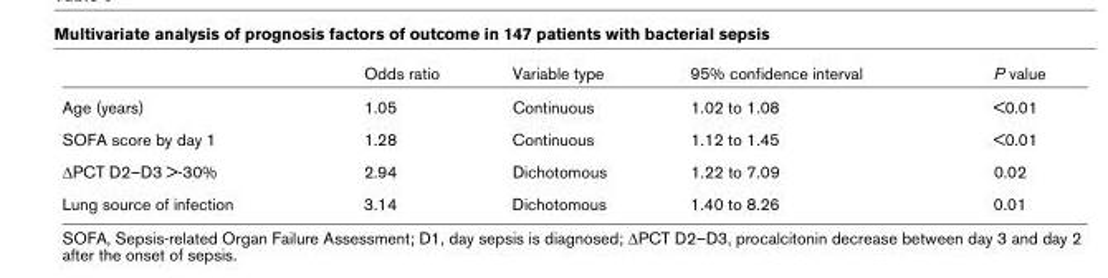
<table><thead><tr><td></td><td>Odds ratio</td><td>Variable type</td><td>95% confidence interval</td><td>P value</td></tr></thead><tbody><tr><td>Age (years)</td><td>1.05</td><td>Continuous</td><td>1.02 to 1.08</td><td>&lt;0.01</td></tr><tr><td>SOFA score by day 1</td><td>1.28</td><td>Continuous</td><td>1.12 to 1.45</td><td>&lt;0.01</td></tr><tr><td>ΔPCT D2–D3 &gt;-30%</td><td>2.94</td><td>Dichotomous</td><td>1.22 to 7.09</td><td>0.02</td></tr><tr><td>Lung source of infection</td><td>3.14</td><td>Dichotomous</td><td>1.40 to 8.26</td><td>0.01</td></tr></tbody></table>